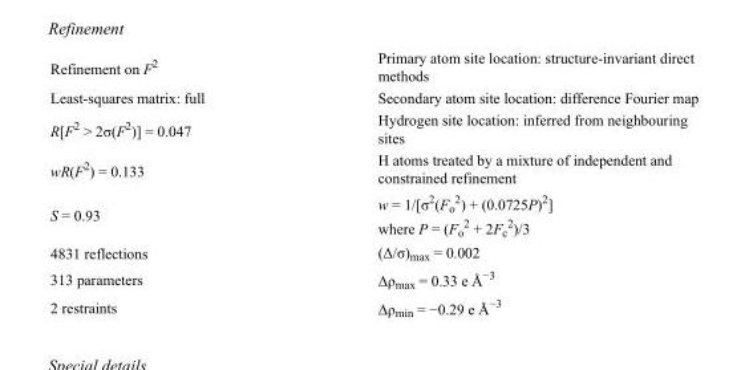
<table><tbody><tr><td>Refinement on F<sup>2</sup></td><td>Primary atom site location: structure-invariant direct methods</td></tr><tr><td>Least-squares matrix: full</td><td>Secondary atom site location: difference Fourier map</td></tr><tr><td>R[F<sup>2</sup> &gt; 2σ(F<sup>2</sup>)] = 0.047</td><td>Hydrogen site location: inferred from neighbouring sites</td></tr><tr><td>wR(F<sup>2</sup>) = 0.133</td><td>H atoms treated by a mixture of independent and constrained refinement</td></tr><tr><td>S = 0.93</td><td>w = 1/[σ<sup>2</sup>(F<sub>o</sub> <sup>2</sup>) + (0.0725P)<sup>2</sup>] where P = (F<sub>o</sub> <sup>2</sup> + 2F<sub>c</sub> <sup>2</sup>)/3</td></tr><tr><td>4831 reflections</td><td>(Δ/σ)<sub>max</sub> = 0.002</td></tr><tr><td>313 parameters</td><td>Δρ<sub>max</sub> = 0.33 e Å<sup>−3</sup></td></tr><tr><td>2 restraints</td><td>Δρ<sub>min</sub> = −0.29 e Å<sup>−3</sup></td></tr></tbody></table>